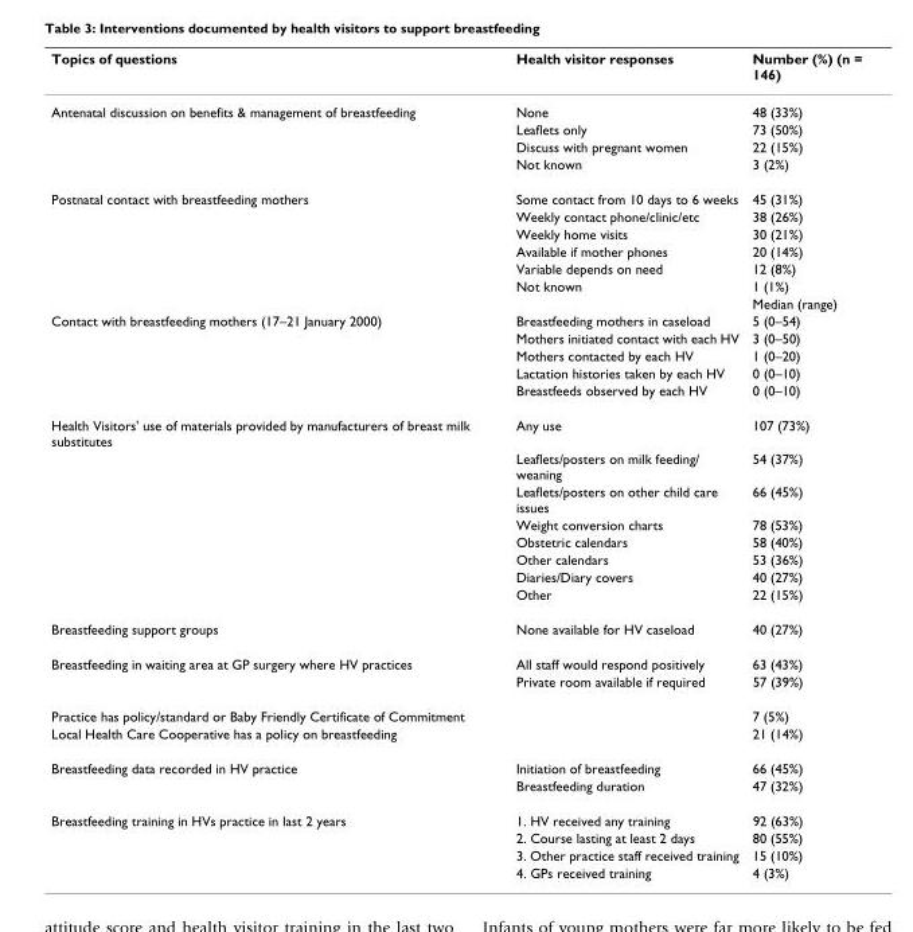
<table><thead><tr><td>Topics of questions</td><td>Health visitor responses</td><td>Number (%) (n = 146)</td></tr></thead><tbody><tr><td rowspan="4">Antenatal discussion on benefits &amp; management of breastfeeding</td><td>None</td><td>48 (33%)</td></tr><tr><td>Leaflets only</td><td>73 (50%)</td></tr><tr><td>Discuss with pregnant women</td><td>22 (15%)</td></tr><tr><td>Not known</td><td>3 (2%)</td></tr><tr><td rowspan="7">Postnatal contact with breastfeeding mothers</td><td>Some contact from 10 days to 6 weeks</td><td>45 (31%)</td></tr><tr><td>Weekly contact phone/clinic/etc</td><td>38 (26%)</td></tr><tr><td>Weekly home visits</td><td>30 (21%)</td></tr><tr><td>Available if mother phones</td><td>20 (14%)</td></tr><tr><td>Variable depends on need</td><td>12 (8%)</td></tr><tr><td>Not known</td><td>1 (1%)</td></tr><tr><td></td><td>Median (range)</td></tr><tr><td rowspan="5">Contact with breastfeeding mothers (17–21 January 2000)</td><td>Breastfeeding mothers in caseload</td><td>5 (0–54)</td></tr><tr><td>Mothers initiated contact with each HV</td><td>3 (0–50)</td></tr><tr><td>Mothers contacted by each HV</td><td>1 (0–20)</td></tr><tr><td>Lactation histories taken by each HV</td><td>0 (0–10)</td></tr><tr><td>Breastfeeds observed by each HV</td><td>0 (0–10)</td></tr><tr><td rowspan="8">Health Visitors&#x27; use of materials provided by manufacturers of breast milk substitutes</td><td>Any use</td><td>107 (73%)</td></tr><tr><td>Leaflets/posters on milk feeding/ weaning</td><td>54 (37%)</td></tr><tr><td>Leaflets/posters on other child care issues</td><td>66 (45%)</td></tr><tr><td>Weight conversion charts</td><td>78 (53%)</td></tr><tr><td>Obstetric calendars</td><td>58 (40%)</td></tr><tr><td>Other calendars</td><td>53 (36%)</td></tr><tr><td>Diaries/Diary covers</td><td>40 (27%)</td></tr><tr><td>Other</td><td>22 (15%)</td></tr><tr><td>Breastfeeding support groups</td><td>None available for HV caseload</td><td>40 (27%)</td></tr><tr><td rowspan="2">Breastfeeding in waiting area at GP surgery where HV practices</td><td>All staff would respond positively</td><td>63 (43%)</td></tr><tr><td>Private room available if required</td><td>57 (39%)</td></tr><tr><td colspan="2">Practice has policy/standard or Baby Friendly Certificate of Commitment</td><td>7 (5%)</td></tr><tr><td colspan="2">Local Health Care Cooperative has a policy on breastfeeding</td><td>21 (14%)</td></tr><tr><td rowspan="2">Breastfeeding data recorded in HV practice</td><td>Initiation of breastfeeding</td><td>66 (45%)</td></tr><tr><td>Breastfeeding duration</td><td>47 (32%)</td></tr><tr><td rowspan="4">Breastfeeding training in HVs practice in last 2 years</td><td>1. HV received any training</td><td>92 (63%)</td></tr><tr><td>2. Course lasting at least 2 days</td><td>80 (55%)</td></tr><tr><td>3. Other practice staff received training</td><td>15 (10%)</td></tr><tr><td>4. GPs received training</td><td>4 (3%)</td></tr></tbody></table>